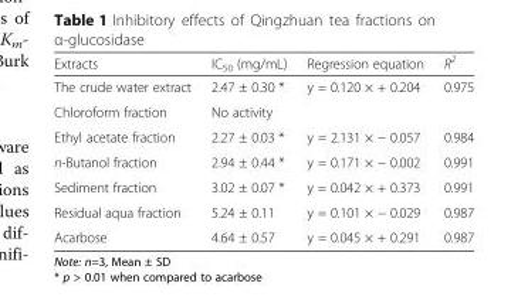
<table><thead><tr><td>Extracts</td><td>IC<sub>50</sub> (mg/mL)</td><td>Regression equation</td><td>R<sup>2</sup></td></tr></thead><tbody><tr><td>The crude water extract</td><td>2.47 ± 0.30 *</td><td>y = 0.120 × + 0.204</td><td>0.975</td></tr><tr><td>Chloroform fraction</td><td>No activity</td><td></td><td></td></tr><tr><td>Ethyl acetate fraction</td><td>2.27 ± 0.03 *</td><td>y = 2.131 × − 0.057</td><td>0.984</td></tr><tr><td>n-Butanol fraction</td><td>2.94 ± 0.44 *</td><td>y = 0.171 × − 0.002</td><td>0.991</td></tr><tr><td>Sediment fraction</td><td>3.02 ± 0.07 *</td><td>y = 0.042 × + 0.373</td><td>0.991</td></tr><tr><td>Residual aqua fraction</td><td>5.24 ± 0.11</td><td>y = 0.101 × − 0.029</td><td>0.987</td></tr><tr><td>Acarbose</td><td>4.64 ± 0.57</td><td>y = 0.045 × + 0.291</td><td>0.987</td></tr></tbody></table>